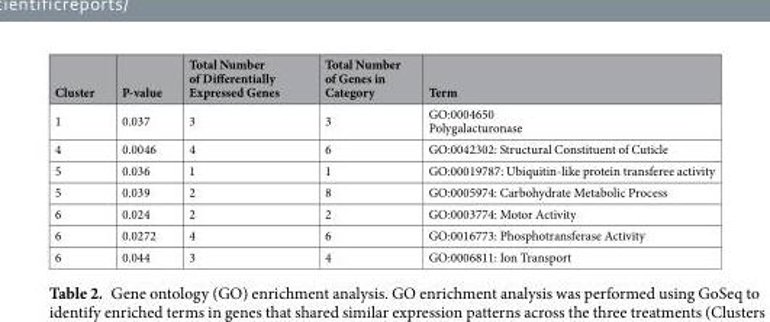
<table><thead><tr><td>Cluster</td><td>P-value</td><td>Total Number of Differentially Expressed Genes</td><td>Total Number of Genes in Category</td><td>Term</td></tr></thead><tbody><tr><td>1</td><td>0.037</td><td>3</td><td>3</td><td>GO:0004650 Polygalacturonase</td></tr><tr><td>4</td><td>0.0046</td><td>4</td><td>6</td><td>GO:0042302: Structural Constituent of Cuticle</td></tr><tr><td>5</td><td>0.036</td><td>1</td><td>1</td><td>GO:00019787: Ubiquitin-like protein transferee activity</td></tr><tr><td>5</td><td>0.039</td><td>2</td><td>8</td><td>GO:0005974: Carbohydrate Metabolic Process</td></tr><tr><td>6</td><td>0.024</td><td>2</td><td>2</td><td>GO:0003774: Motor Activity</td></tr><tr><td>6</td><td>0.0272</td><td>4</td><td>6</td><td>GO:0016773: Phosphotransferase Activity</td></tr><tr><td>6</td><td>0.044</td><td>3</td><td>4</td><td>GO:0006811: Ion Transport</td></tr></tbody></table>